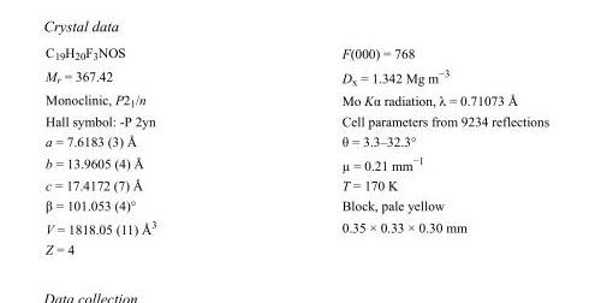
<table><tbody><tr><td>C<sub>19</sub>H<sub>20</sub>F<sub>3</sub>NOS</td><td>F(000) = 768</td></tr><tr><td>M<sub>r</sub> = 367.42</td><td>D<sub>x</sub> = 1.342 Mg m<sup>−3</sup></td></tr><tr><td>Monoclinic, P2<sub>1</sub>/n</td><td>Mo Kα radiation, λ = 0.71073 Å</td></tr><tr><td>Hall symbol: -P 2yn</td><td>Cell parameters from 9234 reflections</td></tr><tr><td>a = 7.6183 (3) Å</td><td>θ = 3.3–32.3°</td></tr><tr><td>b = 13.9605 (4) Å</td><td>µ = 0.21 mm<sup>−1</sup></td></tr><tr><td>c = 17.4172 (7) Å</td><td>T = 170 K</td></tr><tr><td>β = 101.053 (4)°</td><td>Block, pale yellow</td></tr><tr><td>V = 1818.05 (11) Å<sup>3</sup></td><td>0.35 × 0.33 × 0.30 mm</td></tr><tr><td>Z = 4</td><td></td></tr></tbody></table>